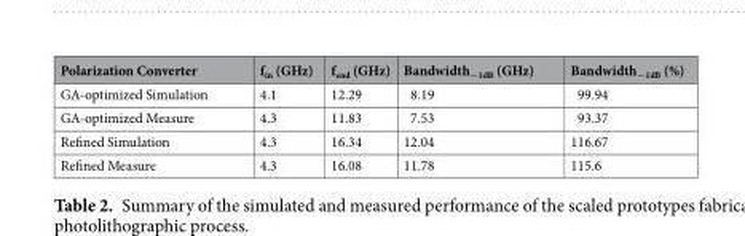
<table><thead><tr><td>Polarization Converter</td><td>f<sub>in</sub> (GHz)</td><td>f<sub>end</sub> (GHz)</td><td>Bandwidth<sub>−1dB</sub> (GHz)</td><td>Bandwidth<sub>−1dB</sub> (%)</td></tr></thead><tbody><tr><td>GA-optimized Simulation</td><td>4.1</td><td>12.29</td><td>8.19</td><td>99.94</td></tr><tr><td>GA-optimized Measure</td><td>4.3</td><td>11.83</td><td>7.53</td><td>93.37</td></tr><tr><td>Refined Simulation</td><td>4.3</td><td>16.34</td><td>12.04</td><td>116.67</td></tr><tr><td>Refined Measure</td><td>4.3</td><td>16.08</td><td>11.78</td><td>115.6</td></tr></tbody></table>